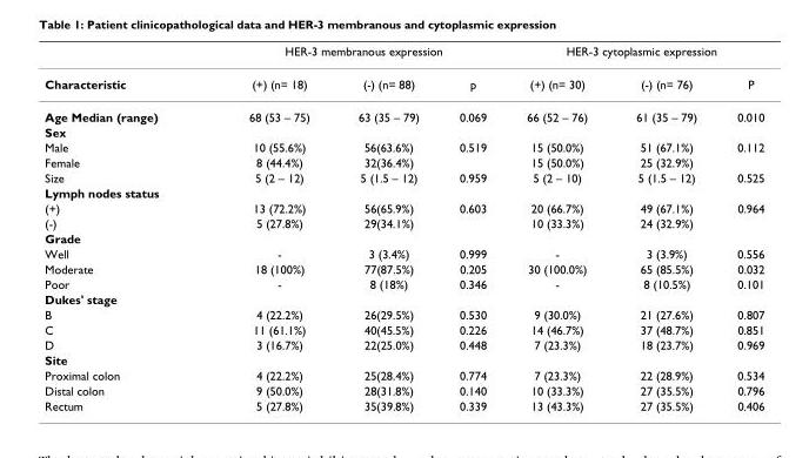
<table><thead><tr><td rowspan="2">Characteristic</td><td colspan="3">HER-3 membranous expression</td><td colspan="3">HER-3 cytoplasmic expression</td></tr><tr><td>(+) (n= 18)</td><td>(-) (n= 88)</td><td>p</td><td>(+) (n= 30)</td><td>(-) (n= 76)</td><td>P</td></tr></thead><tbody><tr><td>Age Median (range)</td><td>68 (53 – 75)</td><td>63 (35 – 79)</td><td>0.069</td><td>66 (52 – 76)</td><td>61 (35 – 79)</td><td>0.010</td></tr><tr><td colspan="7">Sex</td></tr><tr><td>Male</td><td>10 (55.6%)</td><td>56(63.6%)</td><td>0.519</td><td>15 (50.0%)</td><td>51 (67.1%)</td><td>0.112</td></tr><tr><td>Female</td><td>8 (44.4%)</td><td>32(36.4%)</td><td></td><td>15 (50.0%)</td><td>25 (32.9%)</td><td></td></tr><tr><td>Size</td><td>5 (2 – 12)</td><td>5 (1.5 – 12)</td><td>0.959</td><td>5 (2 – 10)</td><td>5 (1.5 – 12)</td><td>0.525</td></tr><tr><td colspan="7">Lymph nodes status</td></tr><tr><td>(+)</td><td>13 (72.2%)</td><td>56(65.9%)</td><td>0.603</td><td>20 (66.7%)</td><td>49 (67.1%)</td><td>0.964</td></tr><tr><td>(-)</td><td>5 (27.8%)</td><td>29(34.1%)</td><td></td><td>10 (33.3%)</td><td>24 (32.9%)</td><td></td></tr><tr><td colspan="7">Grade</td></tr><tr><td>Well</td><td>-</td><td>3 (3.4%)</td><td>0.999</td><td>-</td><td>3 (3.9%)</td><td>0.556</td></tr><tr><td>Moderate</td><td>18 (100%)</td><td>77(87.5%)</td><td>0.205</td><td>30 (100.0%)</td><td>65 (85.5%)</td><td>0.032</td></tr><tr><td>Poor</td><td>-</td><td>8 (18%)</td><td>0.346</td><td>-</td><td>8 (10.5%)</td><td>0.101</td></tr><tr><td colspan="7">Dukes&#x27; stage</td></tr><tr><td>B</td><td>4 (22.2%)</td><td>26(29.5%)</td><td>0.530</td><td>9 (30.0%)</td><td>21 (27.6%)</td><td>0.807</td></tr><tr><td>C</td><td>11 (61.1%)</td><td>40(45.5%)</td><td>0.226</td><td>14 (46.7%)</td><td>37 (48.7%)</td><td>0.851</td></tr><tr><td>D</td><td>3 (16.7%)</td><td>22(25.0%)</td><td>0.448</td><td>7 (23.3%)</td><td>18 (23.7%)</td><td>0.969</td></tr><tr><td colspan="7">Site</td></tr><tr><td>Proximal colon</td><td>4 (22.2%)</td><td>25(28.4%)</td><td>0.774</td><td>7 (23.3%)</td><td>22 (28.9%)</td><td>0.534</td></tr><tr><td>Distal colon</td><td>9 (50.0%)</td><td>28(31.8%)</td><td>0.140</td><td>10 (33.3%)</td><td>27 (35.5%)</td><td>0.796</td></tr><tr><td>Rectum</td><td>5 (27.8%)</td><td>35(39.8%)</td><td>0.339</td><td>13 (43.3%)</td><td>27 (35.5%)</td><td>0.406</td></tr></tbody></table>